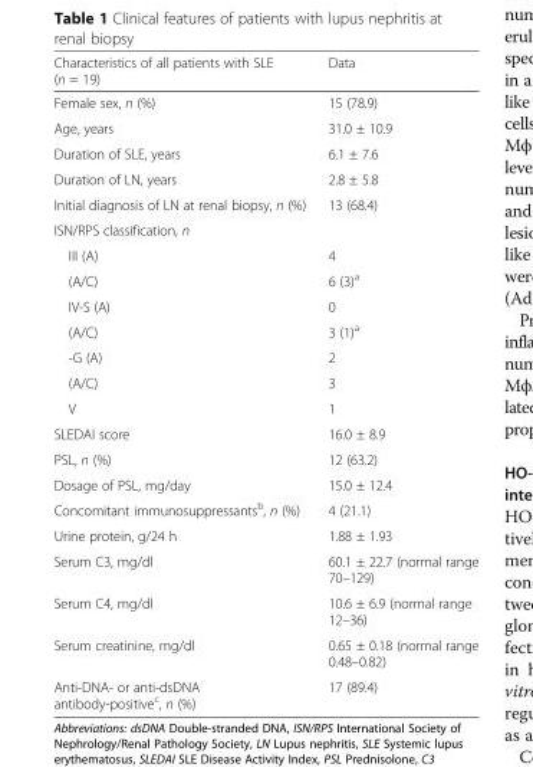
<table><thead><tr><td>Characteristics of all patients with SLE (n = 19)</td><td>Data</td></tr></thead><tbody><tr><td>Female sex, n (%)</td><td>15 (78.9)</td></tr><tr><td>Age, years</td><td>31.0 ± 10.9</td></tr><tr><td>Duration of SLE, years</td><td>6.1 ± 7.6</td></tr><tr><td>Duration of LN, years</td><td>2.8 ± 5.8</td></tr><tr><td>Initial diagnosis of LN at renal biopsy, n (%)</td><td>13 (68.4)</td></tr><tr><td colspan="2">ISN/RPS classification, n</td></tr><tr><td>III (A)</td><td>4</td></tr><tr><td>(A/C)</td><td>6 (3)<sup>a</sup></td></tr><tr><td>IV-S (A)</td><td>0</td></tr><tr><td>(A/C)</td><td>3 (1)<sup>a</sup></td></tr><tr><td>-G (A)</td><td>2</td></tr><tr><td>(A/C)</td><td>3</td></tr><tr><td>V</td><td>1</td></tr><tr><td>SLEDAI score</td><td>16.0 ± 8.9</td></tr><tr><td>PSL, n (%)</td><td>12 (63.2)</td></tr><tr><td>Dosage of PSL, mg/day</td><td>15.0 ± 12.4</td></tr><tr><td>Concomitant immunosuppressants<sup>b</sup>, n (%)</td><td>4 (21.1)</td></tr><tr><td>Urine protein, g/24 h</td><td>1.88 ± 1.93</td></tr><tr><td>Serum C3, mg/dl</td><td>60.1 ± 22.7 (normal range 70–129)</td></tr><tr><td>Serum C4, mg/dl</td><td>10.6 ± 6.9 (normal range 12–36)</td></tr><tr><td>Serum creatinine, mg/dl</td><td>0.65 ± 0.18 (normal range 0.48–0.82)</td></tr><tr><td>Anti-DNA- or anti-dsDNA antibody-positive<sup>c</sup>, n (%)</td><td>17 (89.4)</td></tr></tbody></table>